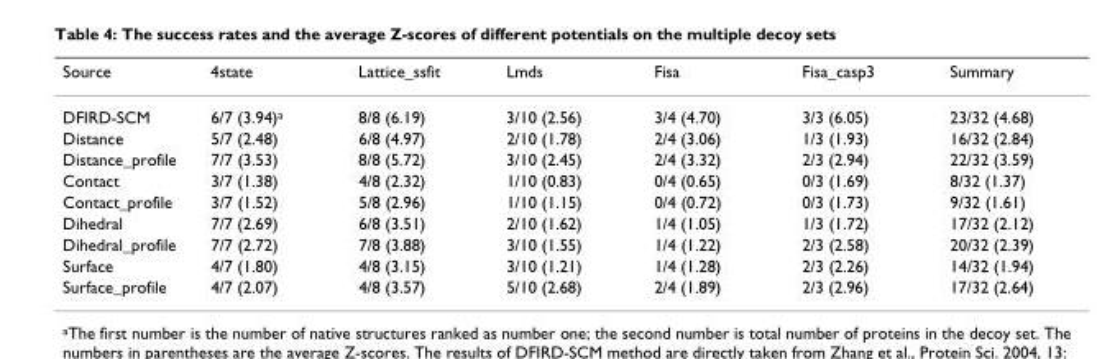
<table><thead><tr><td>Source</td><td>4state</td><td>Lattice_ssfit</td><td>Lmds</td><td>Fisa</td><td>Fisa_casp3</td><td>Summary</td></tr></thead><tbody><tr><td>DFIRD-SCM</td><td>6/7 (3.94)a</td><td>8/8 (6.19)</td><td>3/10 (2.56)</td><td>3/4 (4.70)</td><td>3/3 (6.05)</td><td>23/32 (4.68)</td></tr><tr><td>Distance</td><td>5/7 (2.48)</td><td>6/8 (4.97)</td><td>2/10 (1.78)</td><td>2/4 (3.06)</td><td>1/3 (1.93)</td><td>16/32 (2.84)</td></tr><tr><td>Distance_profile</td><td>7/7 (3.53)</td><td>8/8 (5.72)</td><td>3/10 (2.45)</td><td>2/4 (3.32)</td><td>2/3 (2.94)</td><td>22/32 (3.59)</td></tr><tr><td>Contact</td><td>3/7 (1.38)</td><td>4/8 (2.32)</td><td>1/10 (0.83)</td><td>0/4 (0.65)</td><td>0/3 (1.69)</td><td>8/32 (1.37)</td></tr><tr><td>Contact_profile</td><td>3/7 (1.52)</td><td>5/8 (2.96)</td><td>1/10 (1.15)</td><td>0/4 (0.72)</td><td>0/3 (1.73)</td><td>9/32 (1.61)</td></tr><tr><td>Dihedral</td><td>7/7 (2.69)</td><td>6/8 (3.51)</td><td>2/10 (1.62)</td><td>1/4 (1.05)</td><td>1/3 (1.72)</td><td>17/32 (2.12)</td></tr><tr><td>Dihedral_profile</td><td>7/7 (2.72)</td><td>7/8 (3.88)</td><td>3/10 (1.55)</td><td>1/4 (1.22)</td><td>2/3 (2.58)</td><td>20/32 (2.39)</td></tr><tr><td>Surface</td><td>4/7 (1.80)</td><td>4/8 (3.15)</td><td>3/10 (1.21)</td><td>1/4 (1.28)</td><td>2/3 (2.26)</td><td>14/32 (1.94)</td></tr><tr><td>Surface_profile</td><td>4/7 (2.07)</td><td>4/8 (3.57)</td><td>5/10 (2.68)</td><td>2/4 (1.89)</td><td>2/3 (2.96)</td><td>17/32 (2.64)</td></tr></tbody></table>